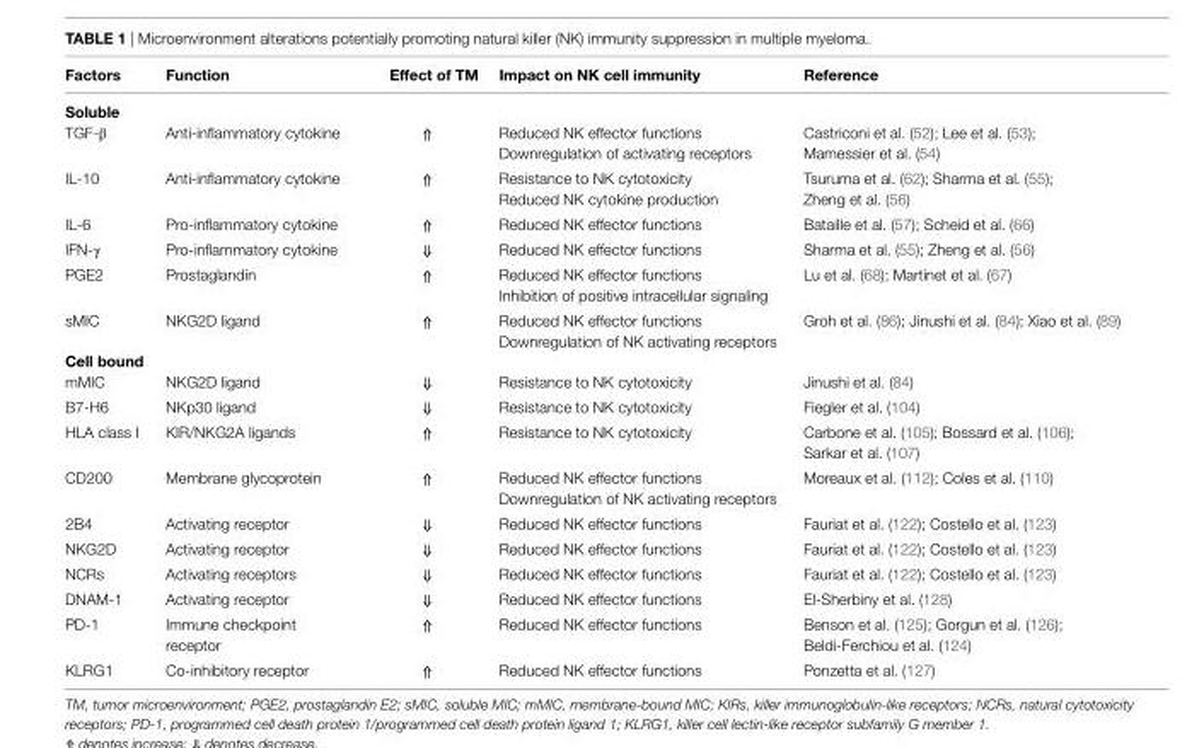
<table><thead><tr><td>Factors</td><td>Function</td><td>effect of TM</td><td>impact on NK cell immunity</td><td>Reference</td></tr></thead><tbody><tr><td colspan="5">Soluble</td></tr><tr><td>TGF-β</td><td>Anti-inflammatory cytokine</td><td>⇑</td><td>Reduced NK effector functions Downregulation of activating receptors</td><td>Castriconi et al. (52); Lee et al. (53); Mamessier et al. (54)</td></tr><tr><td>IL-10</td><td>Anti-inflammatory cytokine</td><td>⇑</td><td>Resistance to NK cytotoxicity Reduced NK cytokine production</td><td>Tsuruma et al. (62); Sharma et al. (55); Zheng et al. (56)</td></tr><tr><td>IL-6</td><td>Pro-inflammatory cytokine</td><td>⇑</td><td>Reduced NK effector functions</td><td>Bataille et al. (57); Scheid et al. (66)</td></tr><tr><td>IFN-γ</td><td>Pro-inflammatory cytokine</td><td>⇓</td><td>Reduced NK effector functions</td><td>Sharma et al. (55); Zheng et al. (56)</td></tr><tr><td>PGE2</td><td>Prostaglandin</td><td>⇑</td><td>Reduced NK effector functions Inhibition of positive intracellular signaling</td><td>Lu et al. (68); Martinet et al. (67)</td></tr><tr><td>sMIC</td><td>NKG2D ligand</td><td>⇑</td><td>Reduced NK effector functions Downregulation of NK activating receptors</td><td>Groh et al. (86); Jinushi et al. (84); Xiao et al. (89)</td></tr><tr><td colspan="5">Cell bound</td></tr><tr><td>mMIC</td><td>NKG2D ligand</td><td>⇓</td><td>Resistance to NK cytotoxicity</td><td>Jinushi et al. (84)</td></tr><tr><td>B7-H6</td><td>NKp30 ligand</td><td>⇓</td><td>Resistance to NK cytotoxicity</td><td>Fiegler et al. (104)</td></tr><tr><td>HLA class I</td><td>KIR/NKG2A ligands</td><td>⇑</td><td>Resistance to NK cytotoxicity</td><td>Carbone et al. (105); Bossard et al. (106); Sarkar et al. (107)</td></tr><tr><td>CD200</td><td>Membrane glycoprotein</td><td>⇑</td><td>Reduced NK effector functions Downregulation of NK activating receptors</td><td>Moreaux et al. (112); Coles et al. (110)</td></tr><tr><td>2B4</td><td>Activating receptor</td><td>⇓</td><td>Reduced NK effector functions</td><td>Fauriat et al. (122); Costello et al. (123)</td></tr><tr><td>NKG2D</td><td>Activating receptor</td><td>⇓</td><td>Reduced NK effector functions</td><td>Fauriat et al. (122); Costello et al. (123)</td></tr><tr><td>NCRs</td><td>Activating receptors</td><td>⇓</td><td>Reduced NK effector functions</td><td>Fauriat et al. (122); Costello et al. (123)</td></tr><tr><td>DNAM-1</td><td>Activating receptor</td><td>⇓</td><td>Reduced NK effector functions</td><td>El-Sherbiny et al. (128)</td></tr><tr><td>PD-1</td><td>Immune checkpoint receptor</td><td>⇑</td><td>Reduced NK effector functions</td><td>Benson et al. (125); Gorgun et al. (126); Beldi-Ferchiou et al. (124)</td></tr><tr><td>KLRG1</td><td>Co-inhibitory receptor</td><td>⇑</td><td>Reduced NK effector functions</td><td>Ponzetta et al. (127)</td></tr></tbody></table>